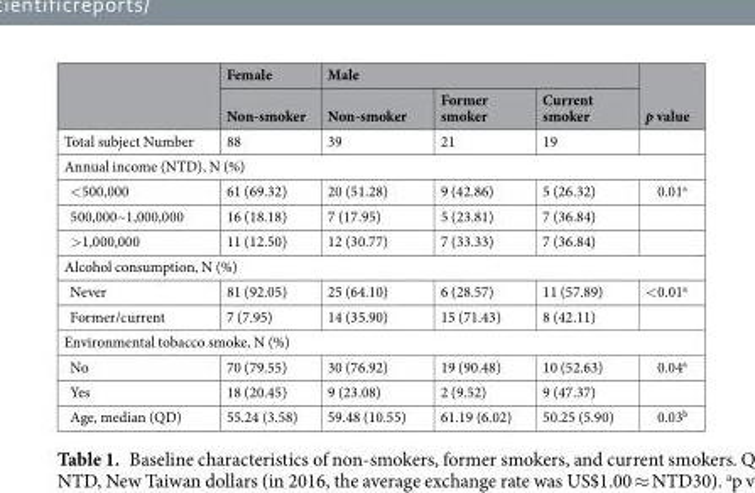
<table><thead><tr><td rowspan="2"></td><td rowspan="2">Female Non-smoker</td><td colspan="3">Male</td><td rowspan="2">p value</td></tr><tr><td>Non-smoker</td><td>Former smoker</td><td>Current smoker</td></tr></thead><tbody><tr><td>Total subject Number</td><td>88</td><td>39</td><td>21</td><td>19</td><td></td></tr><tr><td colspan="6">Annual income (NTD), N (%)</td></tr><tr><td>&lt;500,000</td><td>61 (69.32)</td><td>20 (51.28)</td><td>9 (42.86)</td><td>5 (26.32)</td><td>0.01<sup>a</sup></td></tr><tr><td>500,000~1,000,000</td><td>16 (18.18)</td><td>7 (17.95)</td><td>5 (23.81)</td><td>7 (36.84)</td><td></td></tr><tr><td>&gt;1,000,000</td><td>11 (12.50)</td><td>12 (30.77)</td><td>7 (33.33)</td><td>7 (36.84)</td><td></td></tr><tr><td colspan="6">Alcohol consumption, N (%)</td></tr><tr><td>Never</td><td>81 (92.05)</td><td>25 (64.10)</td><td>6 (28.57)</td><td>11 (57.89)</td><td>&lt;0.01<sup>a</sup></td></tr><tr><td>Former/current</td><td>7 (7.95)</td><td>14 (35.90)</td><td>15 (71.43)</td><td>8 (42.11)</td><td></td></tr><tr><td colspan="6">Environmental tobacco smoke, N (%)</td></tr><tr><td>No</td><td>70 (79.55)</td><td>30 (76.92)</td><td>19 (90.48)</td><td>10 (52.63)</td><td>0.04<sup>a</sup></td></tr><tr><td>Yes</td><td>18 (20.45)</td><td>9 (23.08)</td><td>2 (9.52)</td><td>9 (47.37)</td><td></td></tr><tr><td>Age, median (QD)</td><td>55.24 (3.58)</td><td>59.48 (10.55)</td><td>61.19 (6.02)</td><td>50.25 (5.90)</td><td>0.03<sup>b</sup></td></tr></tbody></table>